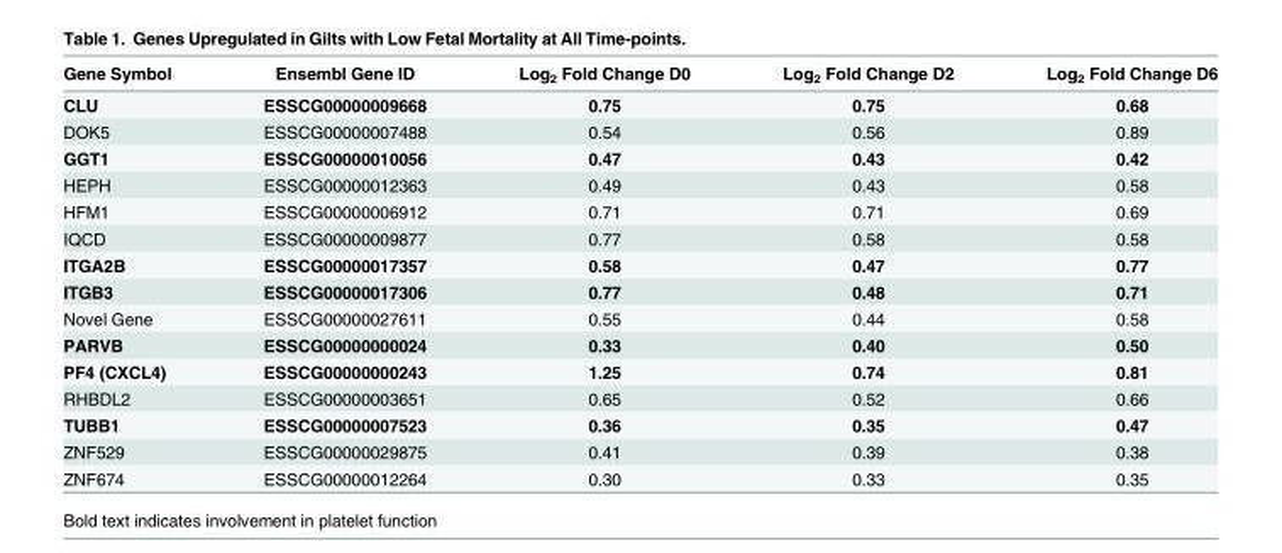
<table><thead><tr><td>Gene Symbol</td><td>Ensembl Gene ID</td><td>Log<sub>2</sub> Fold Change D0</td><td>Log<sub>2</sub> Fold Change D2</td><td>Log<sub>2</sub> Fold Change D6</td></tr></thead><tbody><tr><td>CLU</td><td>ESSCG00000009668</td><td>0.75</td><td>0.75</td><td>0.68</td></tr><tr><td>DOK5</td><td>ESSCG00000007488</td><td>0.54</td><td>0.56</td><td>0.89</td></tr><tr><td>GGT1</td><td>ESSCG00000010056</td><td>0.47</td><td>0.43</td><td>0.42</td></tr><tr><td>HEPH</td><td>ESSCG00000012363</td><td>0.49</td><td>0.43</td><td>0.58</td></tr><tr><td>HFM1</td><td>ESSCG00000006912</td><td>0.71</td><td>0.71</td><td>0.69</td></tr><tr><td>IQCD</td><td>ESSCG00000009877</td><td>0.77</td><td>0.58</td><td>0.58</td></tr><tr><td>ITGA2B</td><td>ESSCG00000017357</td><td>0.58</td><td>0.47</td><td>0.77</td></tr><tr><td>ITGB3</td><td>ESSCG00000017306</td><td>0.77</td><td>0.48</td><td>0.71</td></tr><tr><td>Novel Gene</td><td>ESSCG00000027611</td><td>0.55</td><td>0.44</td><td>0.58</td></tr><tr><td>PARVB</td><td>ESSCG00000000024</td><td>0.33</td><td>0.40</td><td>0.50</td></tr><tr><td>PF4 (CXCL4)</td><td>ESSCG00000000243</td><td>1.25</td><td>0.74</td><td>0.81</td></tr><tr><td>RHBDL2</td><td>ESSCG00000003651</td><td>0.65</td><td>0.52</td><td>0.66</td></tr><tr><td>TUBB1</td><td>ESSCG00000007523</td><td>0.36</td><td>0.35</td><td>0.47</td></tr><tr><td>ZNF529</td><td>ESSCG00000029875</td><td>0.41</td><td>0.39</td><td>0.38</td></tr><tr><td>ZNF674</td><td>ESSCG00000012264</td><td>0.30</td><td>0.33</td><td>0.35</td></tr></tbody></table>